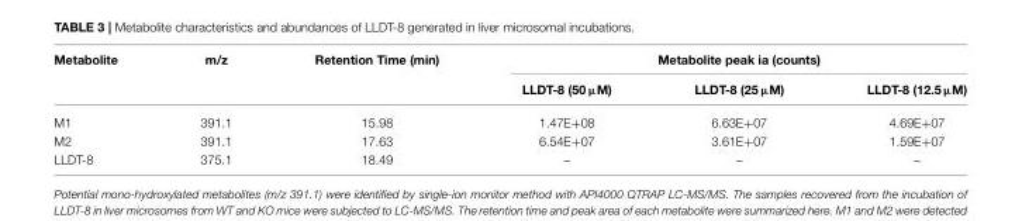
<table><thead><tr><td rowspan="2">Metabolite</td><td rowspan="2">m/z</td><td rowspan="2">Retention Time (min)</td><td colspan="3">Metabolite peak ia (counts)</td></tr><tr><td>LLDT-8 (50 µM)</td><td>LLDT-8 (25 µM)</td><td>LLDT-8 (12.5 µM)</td></tr></thead><tbody><tr><td>M1</td><td>391.1</td><td>15.98</td><td>1.47E+08</td><td>6.63E+07</td><td>4.69E+07</td></tr><tr><td>M2</td><td>391.1</td><td>17.63</td><td>6.54E+07</td><td>3.61E+07</td><td>1.59E+07</td></tr><tr><td>LLDT-8</td><td>375.1</td><td>18.49</td><td>–</td><td>–</td><td>–</td></tr></tbody></table>